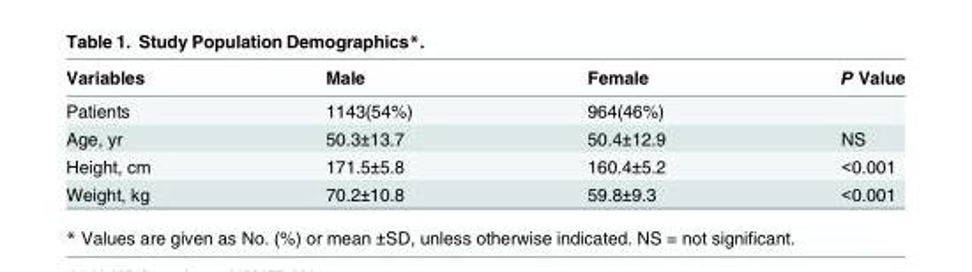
<table><thead><tr><td>Variables</td><td>Male</td><td>Female</td><td>P Value</td></tr></thead><tbody><tr><td>Patients</td><td>1143(54%)</td><td>964(46%)</td><td></td></tr><tr><td>Age, yr</td><td>50.3±13.7</td><td>50.4±12.9</td><td>NS</td></tr><tr><td>Height, cm</td><td>171.5±5.8</td><td>160.4±5.2</td><td>&lt;0.001</td></tr><tr><td>Weight, kg</td><td>70.2±10.8</td><td>59.8±9.3</td><td>&lt;0.001</td></tr></tbody></table>